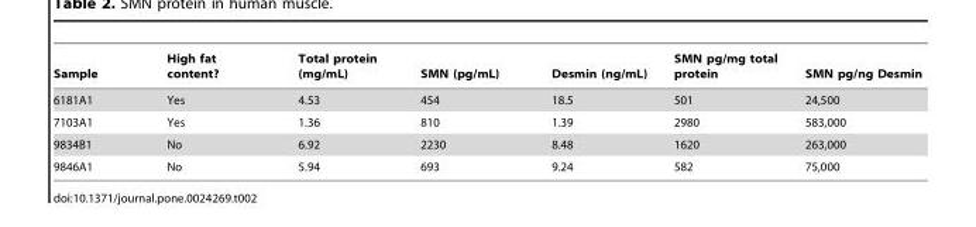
<table><thead><tr><td>Sample</td><td>High fat content?</td><td>Total protein (mg/mL)</td><td>SMN (pg/mL)</td><td>Desmin (ng/mL)</td><td>SMN pg/mg total protein</td><td>SMN pg/ng Desmin</td></tr></thead><tbody><tr><td>6181A1</td><td>Yes</td><td>4.53</td><td>454</td><td>18.5</td><td>501</td><td>24,500</td></tr><tr><td>7103A1</td><td>Yes</td><td>1.36</td><td>810</td><td>1.39</td><td>2980</td><td>583,000</td></tr><tr><td>9834B1</td><td>No</td><td>6.92</td><td>2230</td><td>8.48</td><td>1620</td><td>263,000</td></tr><tr><td>9846A1</td><td>No</td><td>5.94</td><td>693</td><td>9.24</td><td>582</td><td>75,000</td></tr></tbody></table>